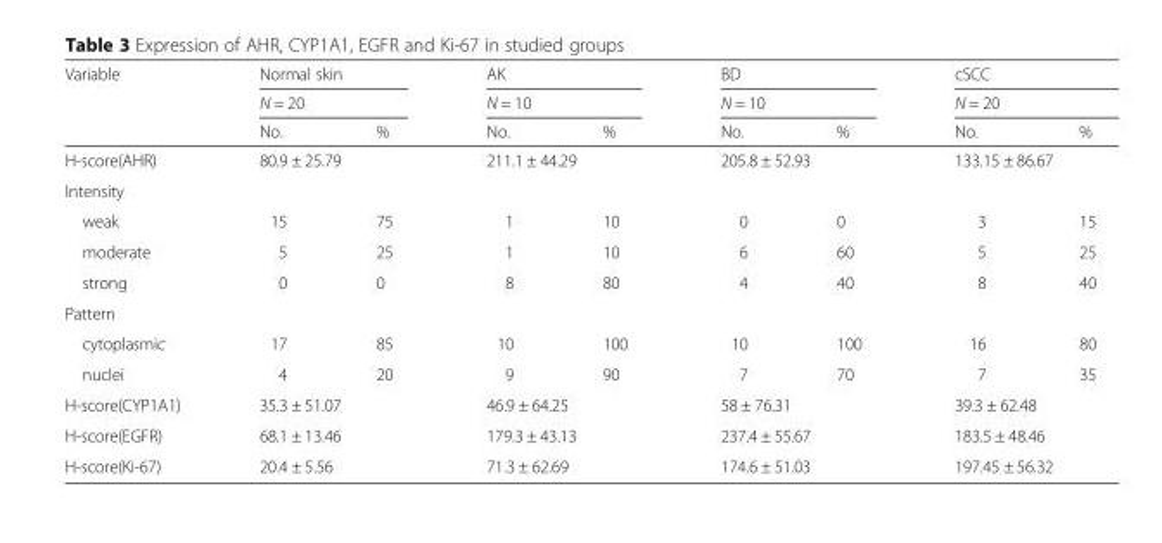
<table><thead><tr><td rowspan="3">Variable</td><td rowspan="2" colspan="2">Normal skin N = 20</td><td rowspan="2" colspan="2">AK N = 10</td><td rowspan="2" colspan="2">BD N = 10</td><td rowspan="2" colspan="2">cSCC N = 20</td></tr><tr></tr><tr><td>No.</td><td>%</td><td>No.</td><td>%</td><td>No.</td><td>%</td><td>No.</td><td>%</td></tr></thead><tbody><tr><td>H-score(AHR)</td><td colspan="2">80.9 ± 25.79</td><td colspan="2">211.1 ± 44.29</td><td colspan="2">205.8 ± 52.93</td><td colspan="2">133.15 ± 86.67</td></tr><tr><td colspan="9">Intensity</td></tr><tr><td>weak</td><td>15</td><td>75</td><td>1</td><td>10</td><td>0</td><td>0</td><td>3</td><td>15</td></tr><tr><td>moderate</td><td>5</td><td>25</td><td>1</td><td>10</td><td>6</td><td>60</td><td>5</td><td>25</td></tr><tr><td>strong</td><td>0</td><td>0</td><td>8</td><td>80</td><td>4</td><td>40</td><td>8</td><td>40</td></tr><tr><td colspan="9">Pattern</td></tr><tr><td>cytoplasmic</td><td>17</td><td>85</td><td>10</td><td>100</td><td>10</td><td>100</td><td>16</td><td>80</td></tr><tr><td>nuclei</td><td>4</td><td>20</td><td>9</td><td>90</td><td>7</td><td>70</td><td>7</td><td>35</td></tr><tr><td>H-score(CYP1A1)</td><td colspan="2">35.3 ± 51.07</td><td colspan="2">46.9 ± 64.25</td><td colspan="2">58 ± 76.31</td><td colspan="2">39.3 ± 62.48</td></tr><tr><td>H-score(EGFR)</td><td colspan="2">68.1 ± 13.46</td><td colspan="2">179.3 ± 43.13</td><td colspan="2">237.4 ± 55.67</td><td colspan="2">183.5 ± 48.46</td></tr><tr><td>H-score(Ki-67)</td><td colspan="2">20.4 ± 5.56</td><td colspan="2">71.3 ± 62.69</td><td colspan="2">174.6 ± 51.03</td><td colspan="2">197.45 ± 56.32</td></tr></tbody></table>